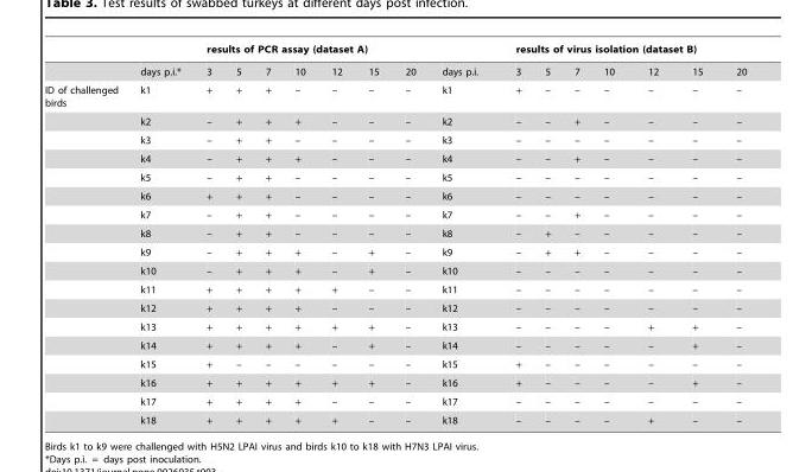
<table><thead><tr><td rowspan="2"></td><td rowspan="2">days p.i.*</td><td colspan="7">results of PCR assay (dataset A)</td><td rowspan="2">days p.i.</td><td colspan="7">results of virus isolation (dataset B)</td></tr><tr><td>3</td><td>5</td><td>7</td><td>10</td><td>12</td><td>15</td><td>20</td><td>3</td><td>5</td><td>7</td><td>10</td><td>12</td><td>15</td><td>20</td></tr></thead><tbody><tr><td rowspan="18">ID of challenged birds</td><td>k1</td><td>+</td><td>+</td><td>+</td><td>–</td><td>–</td><td>–</td><td>–</td><td>k1</td><td>+</td><td>–</td><td>–</td><td>–</td><td>–</td><td>–</td><td>–</td></tr><tr><td>k2</td><td>–</td><td>+</td><td>+</td><td>+</td><td>–</td><td>–</td><td>–</td><td>k2</td><td>–</td><td>–</td><td>+</td><td>–</td><td>–</td><td>–</td><td>–</td></tr><tr><td>k3</td><td>–</td><td>+</td><td>+</td><td>–</td><td>–</td><td>–</td><td>–</td><td>k3</td><td>–</td><td>–</td><td>–</td><td>–</td><td>–</td><td>–</td><td>–</td></tr><tr><td>k4</td><td>–</td><td>+</td><td>+</td><td>+</td><td>–</td><td>–</td><td>–</td><td>k4</td><td>–</td><td>–</td><td>+</td><td>–</td><td>–</td><td>–</td><td>–</td></tr><tr><td>k5</td><td>–</td><td>+</td><td>+</td><td>–</td><td>–</td><td>–</td><td>–</td><td>k5</td><td>–</td><td>–</td><td>–</td><td>–</td><td>–</td><td>–</td><td>–</td></tr><tr><td>k6</td><td>+</td><td>+</td><td>+</td><td>–</td><td>–</td><td>–</td><td>–</td><td>k6</td><td>–</td><td>–</td><td>–</td><td>–</td><td>–</td><td>–</td><td>–</td></tr><tr><td>k7</td><td>–</td><td>+</td><td>+</td><td>–</td><td>–</td><td>–</td><td>–</td><td>k7</td><td>–</td><td>–</td><td>+</td><td>–</td><td>–</td><td>–</td><td>–</td></tr><tr><td>k8</td><td>–</td><td>+</td><td>+</td><td>–</td><td>–</td><td>–</td><td>–</td><td>k8</td><td>–</td><td>+</td><td>–</td><td>–</td><td>–</td><td>–</td><td>–</td></tr><tr><td>k9</td><td>–</td><td>+</td><td>+</td><td>+</td><td>–</td><td>+</td><td>–</td><td>k9</td><td>–</td><td>+</td><td>+</td><td>–</td><td>–</td><td>–</td><td>–</td></tr><tr><td>k10</td><td>–</td><td>+</td><td>+</td><td>+</td><td>–</td><td>+</td><td>–</td><td>k10</td><td>–</td><td>–</td><td>–</td><td>–</td><td>–</td><td>–</td><td>–</td></tr><tr><td>k11</td><td>+</td><td>+</td><td>+</td><td>+</td><td>+</td><td>–</td><td>–</td><td>k11</td><td>–</td><td>–</td><td>–</td><td>–</td><td>–</td><td>–</td><td>–</td></tr><tr><td>k12</td><td>+</td><td>+</td><td>+</td><td>+</td><td>–</td><td>–</td><td>–</td><td>k12</td><td>–</td><td>–</td><td>–</td><td>–</td><td>–</td><td>–</td><td>–</td></tr><tr><td>k13</td><td>+</td><td>+</td><td>+</td><td>+</td><td>+</td><td>+</td><td>–</td><td>k13</td><td>–</td><td>–</td><td>–</td><td>–</td><td>+</td><td>+</td><td>–</td></tr><tr><td>k14</td><td>+</td><td>+</td><td>+</td><td>+</td><td>–</td><td>+</td><td>–</td><td>k14</td><td>–</td><td>–</td><td>–</td><td>–</td><td>–</td><td>+</td><td>–</td></tr><tr><td>k15</td><td>+</td><td>–</td><td>–</td><td>–</td><td>–</td><td>–</td><td>–</td><td>k15</td><td>+</td><td>–</td><td>–</td><td>–</td><td>–</td><td>–</td><td>–</td></tr><tr><td>k16</td><td>+</td><td>+</td><td>+</td><td>+</td><td>+</td><td>+</td><td>–</td><td>k16</td><td>+</td><td>–</td><td>–</td><td>–</td><td>–</td><td>+</td><td>–</td></tr><tr><td>k17</td><td>+</td><td>+</td><td>+</td><td>+</td><td>–</td><td>–</td><td>–</td><td>k17</td><td>–</td><td>–</td><td>–</td><td>–</td><td>–</td><td>–</td><td>–</td></tr><tr><td>k18</td><td>+</td><td>+</td><td>+</td><td>+</td><td>+</td><td>–</td><td>–</td><td>k18</td><td>–</td><td>–</td><td>–</td><td>–</td><td>+</td><td>–</td><td>–</td></tr></tbody></table>